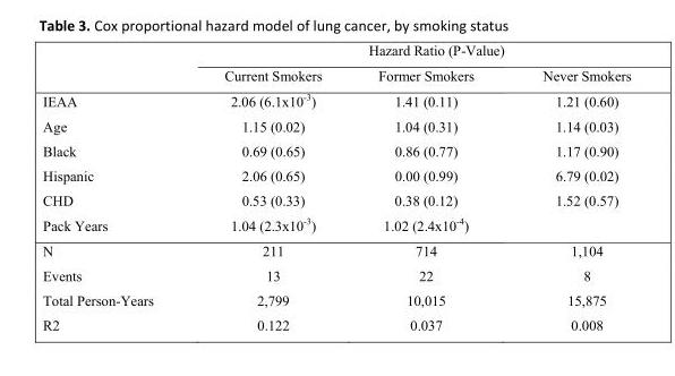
<table><thead><tr><td rowspan="2"></td><td colspan="3">Hazard Ratio (P-Value)</td></tr><tr><td>Current Smokers</td><td>Former Smokers</td><td>Never Smokers</td></tr></thead><tbody><tr><td>IEAA</td><td>2.06 (6.1x10-3)</td><td>1.41 (0.11)</td><td>1.21 (0.60)</td></tr><tr><td>Age</td><td>1.15 (0.02)</td><td>1.04 (0.31)</td><td>1.14 (0.03)</td></tr><tr><td>Black</td><td>0.69 (0.65)</td><td>0.86 (0.77)</td><td>1.17 (0.90)</td></tr><tr><td>Hispanic</td><td>2.06 (0.65)</td><td>0.00 (0.99)</td><td>6.79 (0.02)</td></tr><tr><td>CHD</td><td>0.53 (0.33)</td><td>0.38 (0.12)</td><td>1.52 (0.57)</td></tr><tr><td>Pack Years</td><td>1.04 (2.3x10-3)</td><td>1.02 (2.4x10-4)</td><td></td></tr><tr><td>N</td><td>211</td><td>714</td><td>1,104</td></tr><tr><td>Events</td><td>13</td><td>22</td><td>8</td></tr><tr><td>Total Person-Years</td><td>2,799</td><td>10,015</td><td>15,875</td></tr><tr><td>R2</td><td>0.122</td><td>0.037</td><td>0.008</td></tr></tbody></table>